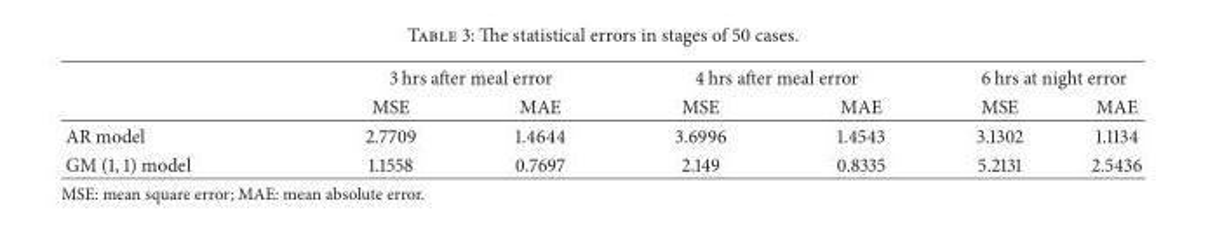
<table><thead><tr><td rowspan="2"></td><td colspan="2">3 hrs after meal error</td><td colspan="2">4 hrs after meal error</td><td colspan="2">6 hrs at night error</td></tr><tr><td>MSE</td><td>MAE</td><td>MSE</td><td>MAE</td><td>MSE</td><td>MAE</td></tr></thead><tbody><tr><td>AR model</td><td>2.7709</td><td>1.4644</td><td>3.6996</td><td>1.4543</td><td>3.1302</td><td>1.1134</td></tr><tr><td>GM (1, 1) model</td><td>1.1558</td><td>0.7697</td><td>2.149</td><td>0.8335</td><td>5.2131</td><td>2.5436</td></tr></tbody></table>